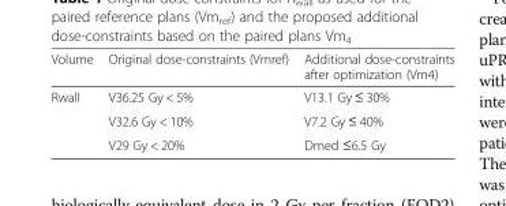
<table><thead><tr><td>Volume</td><td>Original dose-constraints (Vmref)</td><td>Additional dose-constraints after optimization (Vm4)</td></tr></thead><tbody><tr><td rowspan="3">Rwall</td><td>V36.25 Gy &lt; 5%</td><td>V13.1 Gy ≤ 30%</td></tr><tr><td>V32.6 Gy &lt; 10%</td><td>V7.2 Gy ≤ 40%</td></tr><tr><td>V29 Gy &lt; 20%</td><td>Dmed ≤6.5 Gy</td></tr></tbody></table>